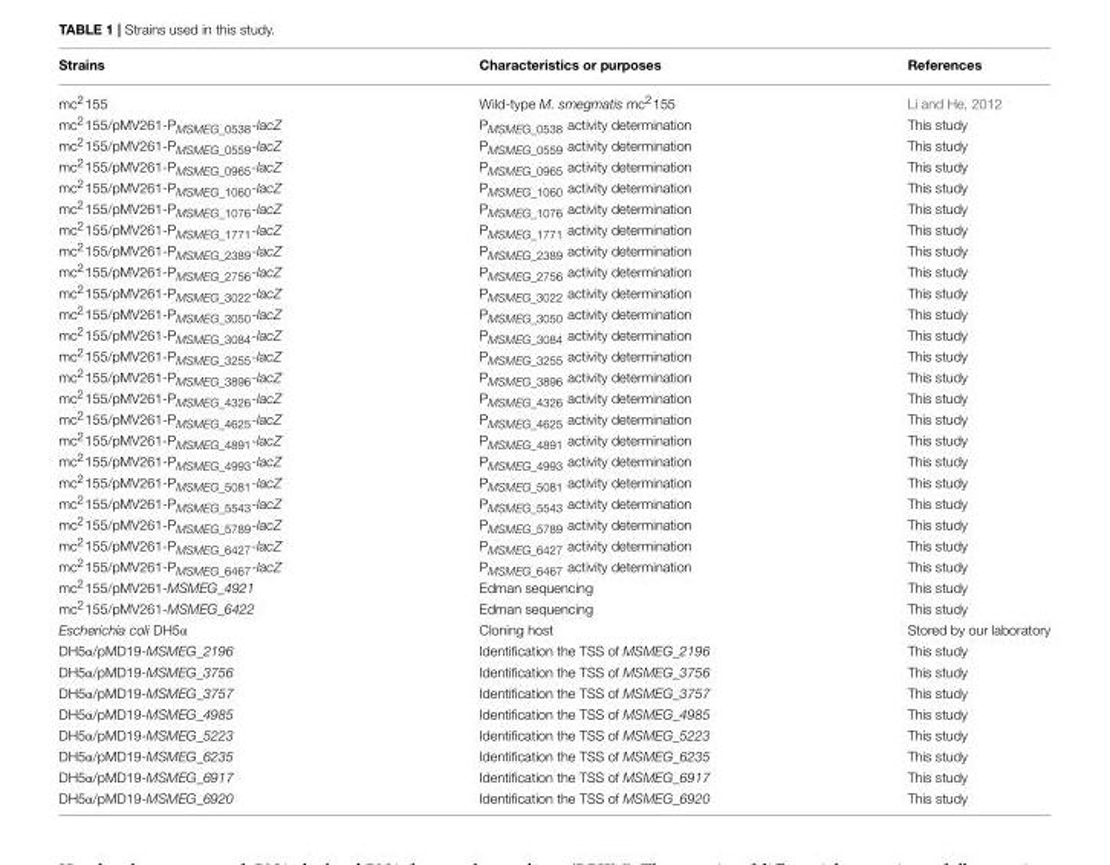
<table><thead><tr><td>Strains</td><td>Characteristics or purposes</td><td>References</td></tr></thead><tbody><tr><td>mc<sup>2</sup>155</td><td>Wild-type M. smegmatis mc<sup>2</sup>155</td><td>Li and He, 2012</td></tr><tr><td>mc2155/pMV261-PMSMEG_0538-lacZ</td><td>PMSMEG_0538 activity determination</td><td>This study</td></tr><tr><td>mc2155/pMV261-PMSMEG_0559-lacZ</td><td>PMSMEG_0559 activity determination</td><td>This study</td></tr><tr><td>mc2155/pMV261-PMSMEG_0965-lacZ</td><td>PMSMEG_0965 activity determination</td><td>This study</td></tr><tr><td>mc2155/pMV261-PMSMEG_1060-lacZ</td><td>PMSMEG_1060 activity determination</td><td>This study</td></tr><tr><td>mc2155/pMV261-PMSMEG_1076-lacZ</td><td>PMSMEG_1076 activity determination</td><td>This study</td></tr><tr><td>mc2155/pMV261-PMSMEG_1771-lacZ</td><td>PMSMEG_1771 activity determination</td><td>This study</td></tr><tr><td>mc2155/pMV261-PMSMEG_2389-lacZ</td><td>PMSMEG_2389 activity determination</td><td>This study</td></tr><tr><td>mc2155/pMV261-PMSMEG_2756-lacZ</td><td>PMSMEG_2756 activity determination</td><td>This study</td></tr><tr><td>mc2155/pMV261-PMSMEG_3022-lacZ</td><td>PMSMEG_3022 activity determination</td><td>This study</td></tr><tr><td>mc2155/pMV261-PMSMEG_3050-lacZ</td><td>PMSMEG_3050 activity determination</td><td>This study</td></tr><tr><td>mc2155/pMV261-PMSMEG_3084-lacZ</td><td>PMSMEG_3084 activity determination</td><td>This study</td></tr><tr><td>mc2155/pMV261-PMSMEG_3255-lacZ</td><td>PMSMEG_3255 activity determination</td><td>This study</td></tr><tr><td>mc2155/pMV261-PMSMEG_3896-lacZ</td><td>PMSMEG_3896 activity determination</td><td>This study</td></tr><tr><td>mc2155/pMV261-PMSMEG_4326-lacZ</td><td>PMSMEG_4326 activity determination</td><td>This study</td></tr><tr><td>mc2155/pMV261-PMSMEG_4625-lacZ</td><td>PMSMEG_4625 activity determination</td><td>This study</td></tr><tr><td>mc2155/pMV261-PMSMEG_4891-lacZ</td><td>PMSMEG_4891 activity determination</td><td>This study</td></tr><tr><td>mc2155/pMV261-PMSMEG_4993-lacZ</td><td>PMSMEG_4993 activity determination</td><td>This study</td></tr><tr><td>mc2155/pMV261-PMSMEG_5081-lacZ</td><td>PMSMEG_5081 activity determination</td><td>This study</td></tr><tr><td>mc2155/pMV261-PMSMEG_5543-lacZ</td><td>PMSMEG_5543 activity determination</td><td>This study</td></tr><tr><td>mc2155/pMV261-PMSMEG_5789-lacZ</td><td>PMSMEG_5789 activity determination</td><td>This study</td></tr><tr><td>mc2155/pMV261-PMSMEG_6427-lacZ</td><td>PMSMEG_6427 activity determination</td><td>This study</td></tr><tr><td>mc2155/pMV261-PMSMEG_6467-lacZ</td><td>PMSMEG_6467 activity determination</td><td>This study</td></tr><tr><td>mc<sup>2</sup>155/pMV261-MSMEG_4921</td><td>Edman sequencing</td><td>This study</td></tr><tr><td>mc<sup>2</sup>155/pMV261-MSMEG_6422</td><td>Edman sequencing</td><td>This study</td></tr><tr><td>Escherichia coli DH5α</td><td>Cloning host</td><td>Stored by our laboratory</td></tr><tr><td>DH5α/pMD19-MSMEG_2196</td><td>Identification the TSS of MSMEG_2196</td><td>This study</td></tr><tr><td>DH5α/pMD19-MSMEG_3756</td><td>Identification the TSS of MSMEG_3756</td><td>This study</td></tr><tr><td>DH5α/pMD19-MSMEG_3757</td><td>Identification the TSS of MSMEG_3757</td><td>This study</td></tr><tr><td>DH5α/pMD19-MSMEG_4985</td><td>Identification the TSS of MSMEG_4985</td><td>This study</td></tr><tr><td>DH5α/pMD19-MSMEG_5223</td><td>Identification the TSS of MSMEG_5223</td><td>This study</td></tr><tr><td>DH5α/pMD19-MSMEG_6235</td><td>Identification the TSS of MSMEG_6235</td><td>This study</td></tr><tr><td>DH5α/pMD19-MSMEG_6917</td><td>Identification the TSS of MSMEG_6917</td><td>This study</td></tr><tr><td>DH5α/pMD19-MSMEG_6920</td><td>Identification the TSS of MSMEG_6920</td><td>This study</td></tr></tbody></table>